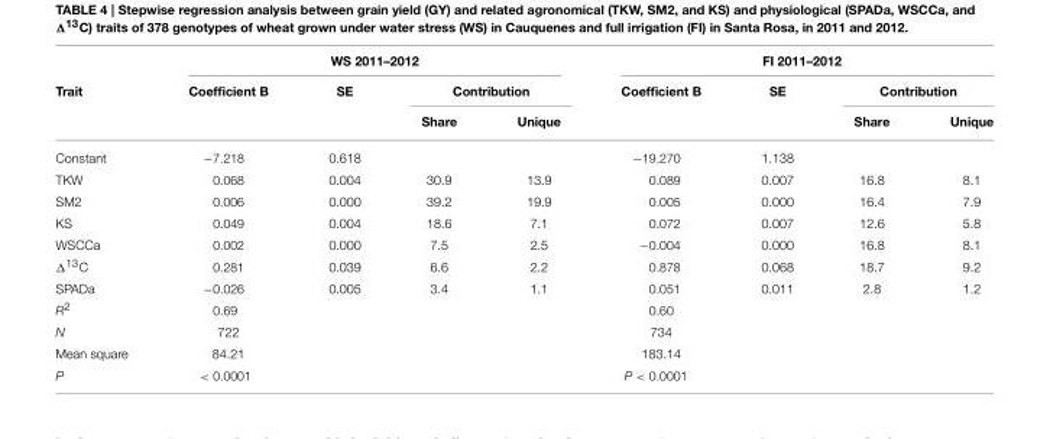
<table><thead><tr><td rowspan="3">Trait</td><td colspan="4">WS 2011–2012</td><td colspan="4">FI 2011–2012</td></tr><tr><td rowspan="2">Coefficient B</td><td rowspan="2">SE</td><td colspan="2">Contribution</td><td rowspan="2">Coefficient B</td><td rowspan="2">SE</td><td colspan="2">Contribution</td></tr><tr><td>Share</td><td>Unique</td><td>Share</td><td>Unique</td></tr></thead><tbody><tr><td>Constant</td><td>−7.218</td><td>0.618</td><td></td><td></td><td>−19.270</td><td>1.138</td><td></td><td></td></tr><tr><td>TKW</td><td>0.068</td><td>0.004</td><td>30.9</td><td>13.9</td><td>0.089</td><td>0.007</td><td>16.8</td><td>8.1</td></tr><tr><td>SM2</td><td>0.006</td><td>0.000</td><td>39.2</td><td>19.9</td><td>0.005</td><td>0.000</td><td>16.4</td><td>7.9</td></tr><tr><td>KS</td><td>0.049</td><td>0.004</td><td>18.6</td><td>7.1</td><td>0.072</td><td>0.007</td><td>12.6</td><td>5.8</td></tr><tr><td>WSCCa</td><td>0.002</td><td>0.000</td><td>7.5</td><td>2.5</td><td>−0.004</td><td>0.000</td><td>16.8</td><td>8.1</td></tr><tr><td>Δ<sup>13</sup>C</td><td>0.281</td><td>0.039</td><td>6.6</td><td>2.2</td><td>0.878</td><td>0.068</td><td>18.7</td><td>9.2</td></tr><tr><td>SPADa</td><td>−0.026</td><td>0.005</td><td>3.4</td><td>1.1</td><td>0.051</td><td>0.011</td><td>2.8</td><td>1.2</td></tr><tr><td>R<sup>2</sup></td><td>0.69</td><td></td><td></td><td></td><td>0.60</td><td></td><td></td><td></td></tr><tr><td>N</td><td>722</td><td></td><td></td><td></td><td>734</td><td></td><td></td><td></td></tr><tr><td>Mean square</td><td>84.21</td><td></td><td></td><td></td><td>183.14</td><td></td><td></td><td></td></tr><tr><td>P</td><td>&lt; 0.0001</td><td></td><td></td><td></td><td>P &lt; 0.0001</td><td></td><td></td><td></td></tr></tbody></table>